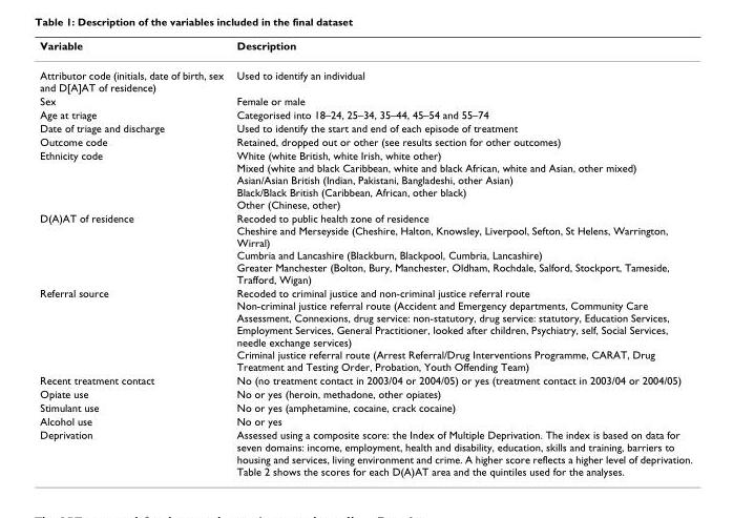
<table><thead><tr><td>Variable</td><td>Description</td></tr></thead><tbody><tr><td>Attributor code (initials, date of birth, sex and D[A]AT of residence)</td><td>Used to identify an individual</td></tr><tr><td>Sex</td><td>Female or male</td></tr><tr><td>Age at triage</td><td>Categorised into 18–24, 25–34, 35–44, 45–54 and 55–74</td></tr><tr><td>Date of triage and discharge</td><td>Used to identify the start and end of each episode of treatment</td></tr><tr><td>Outcome code</td><td>Retained, dropped out or other (see results section for other outcomes)</td></tr><tr><td>Ethnicity code</td><td>White (white British, white Irish, white other) Mixed (white and black Caribbean, white and black African, white and Asian, other mixed) Asian/Asian British (Indian, Pakistani, Bangladeshi, other Asian) Black/Black British (Caribbean, African, other black) Other (Chinese, other)</td></tr><tr><td>D(A)AT of residence</td><td>Recoded to public health zone of residence Cheshire and Merseyside (Cheshire, Halton, Knowsley, Liverpool, Sefton, St Helens, Warrington, Wirral) Cumbria and Lancashire (Blackburn, Blackpool, Cumbria, Lancashire) Greater Manchester (Bolton, Bury, Manchester, Oldham, Rochdale, Salford, Stockport, Tameside, Trafford, Wigan)</td></tr><tr><td>Referral source</td><td>Recoded to criminal justice and non-criminal justice referral route Non-criminal justice referral route (Accident and Emergency departments, Community Care Assessment, Connexions, drug service: non-statutory, drug service: statutory, Education Services, Employment Services, General Practitioner, looked after children, Psychiatry, self, Social Services, needle exchange services) Criminal justice referral route (Arrest Referral/Drug Interventions Programme, CARAT, Drug Treatment and Testing Order, Probation, Youth Offending Team)</td></tr><tr><td>Recent treatment contact</td><td>No (no treatment contact in 2003/04 or 2004/05) or yes (treatment contact in 2003/04 or 2004/05)</td></tr><tr><td>Opiate use</td><td>No or yes (heroin, methadone, other opiates)</td></tr><tr><td>Stimulant use</td><td>No or yes (amphetamine, cocaine, crack cocaine)</td></tr><tr><td>Alcohol use</td><td>No or yes</td></tr><tr><td>Deprivation</td><td>Assessed using a composite score: the Index of Multiple Deprivation. The index is based on data for seven domains: income, employment, health and disability, education, skills and training, barriers to housing and services, living environment and crime. A higher score reflects a higher level of deprivation. Table 2 shows the scores for each D(A)AT area and the quintiles used for the analyses.</td></tr></tbody></table>